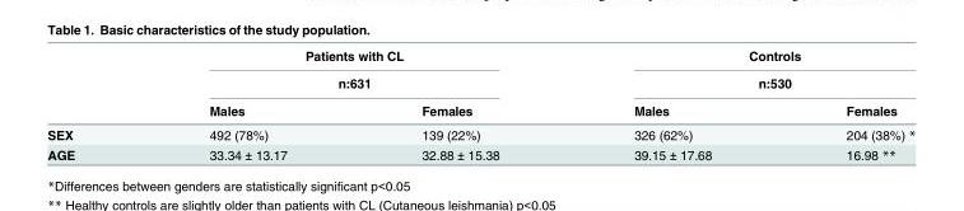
<table><thead><tr><td rowspan="3"></td><td rowspan="2" colspan="2">Patients with CL n:631</td><td rowspan="2" colspan="2">Controls n:530</td></tr><tr></tr><tr><td>Males</td><td>Females</td><td>Males</td><td>Females</td></tr></thead><tbody><tr><td>SEX</td><td>492 (78%)</td><td>139 (22%)</td><td>326 (62%)</td><td>204 (38%) *</td></tr><tr><td>AGE</td><td>33.34 ± 13.17</td><td>32.88 ± 15.38</td><td>39.15 ± 17.68</td><td>16.98 **</td></tr></tbody></table>